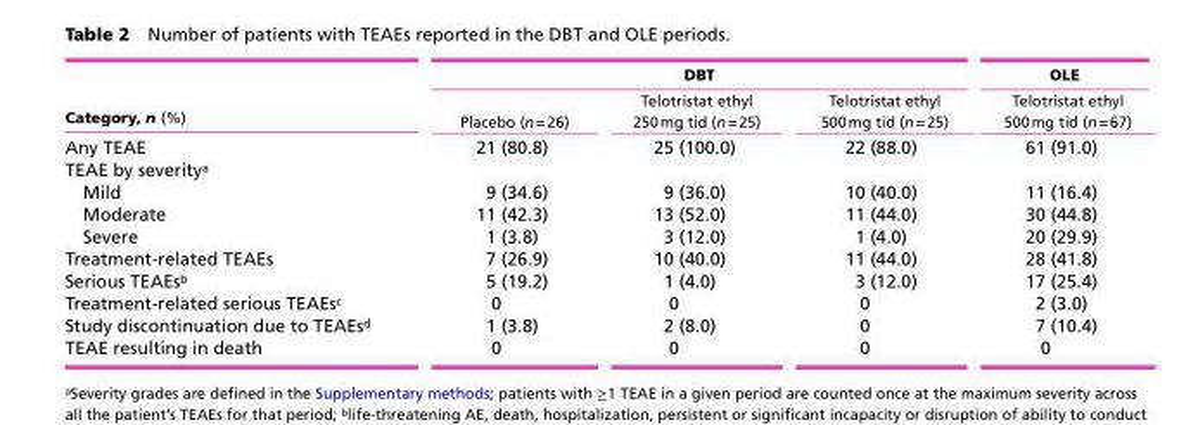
<table><thead><tr><td rowspan="2">Category, n (%)</td><td colspan="3">DBT</td><td rowspan="2">OLE Telotristat ethyl 500 mg tid (n = 67)</td></tr><tr><td>Placebo (n = 26)</td><td>Telotristat ethyl 250 mg tid (n = 25)</td><td>Telotristat ethyl 500 mg tid (n = 25)</td></tr></thead><tbody><tr><td>Any TEAE</td><td>21 (80.8)</td><td>25 (100.0)</td><td>22 (88.0)</td><td>61 (91.0)</td></tr><tr><td colspan="5">TEAE by severity<sup>a</sup></td></tr><tr><td>Mild</td><td>9 (34.6)</td><td>9 (36.0)</td><td>10 (40.0)</td><td>11 (16.4)</td></tr><tr><td>Moderate</td><td>11 (42.3)</td><td>13 (52.0)</td><td>11 (44.0)</td><td>30 (44.8)</td></tr><tr><td>Severe</td><td>1 (3.8)</td><td>3 (12.0)</td><td>1 (4.0)</td><td>20 (29.9)</td></tr><tr><td>Treatment-related TEAEs</td><td>7 (26.9)</td><td>10 (40.0)</td><td>11 (44.0)</td><td>28 (41.8)</td></tr><tr><td>Serious TEAEs<sup>b</sup></td><td>5 (19.2)</td><td>1 (4.0)</td><td>3 (12.0)</td><td>17 (25.4)</td></tr><tr><td>Treatment-related serious TEAEs<sup>c</sup></td><td>0</td><td>0</td><td>0</td><td>2 (3.0)</td></tr><tr><td>Study discontinuation due to TEAEs<sup>d</sup></td><td>1 (3.8)</td><td>2 (8.0)</td><td>0</td><td>7 (10.4)</td></tr><tr><td>TEAE resulting in death</td><td>0</td><td>0</td><td>0</td><td>0</td></tr></tbody></table>